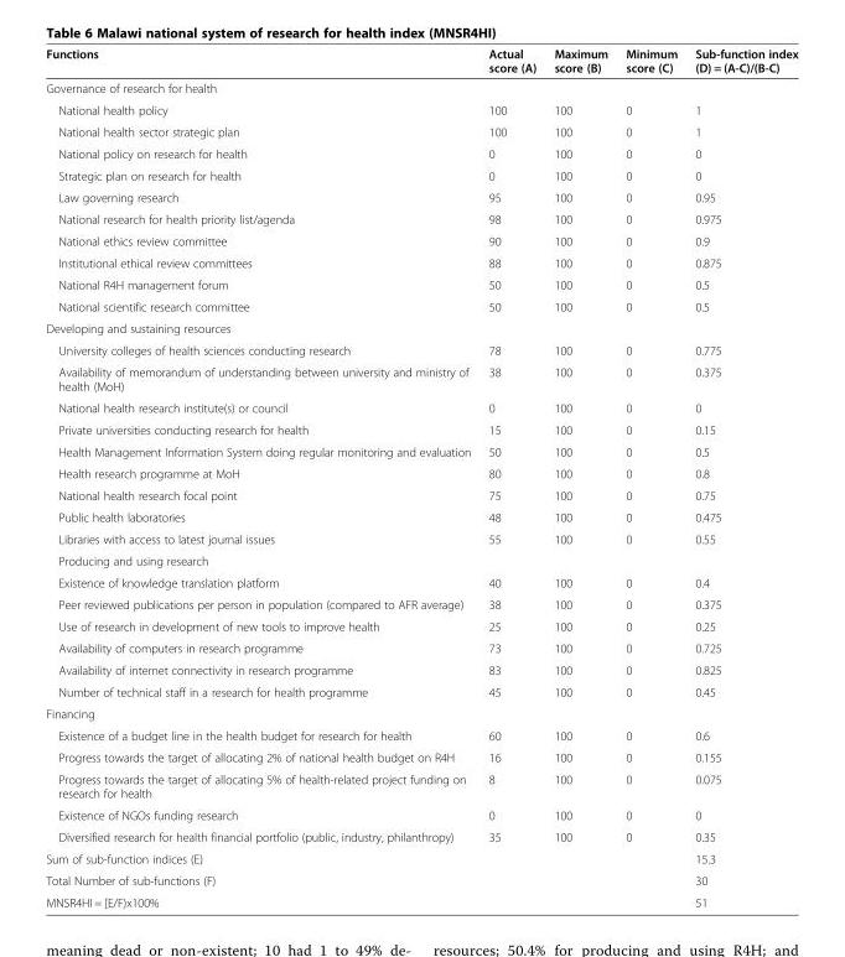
<table><thead><tr><td>Functions</td><td>Actual score (A)</td><td>Maximum score (B)</td><td>Minimum score (C)</td><td>Sub-function index (D) = (A-C)/(B-C)</td></tr></thead><tbody><tr><td colspan="5">Governance of research for health</td></tr><tr><td>National health policy</td><td>100</td><td>100</td><td>0</td><td>1</td></tr><tr><td>National health sector strategic plan</td><td>100</td><td>100</td><td>0</td><td>1</td></tr><tr><td>National policy on research for health</td><td>0</td><td>100</td><td>0</td><td>0</td></tr><tr><td>Strategic plan on research for health</td><td>0</td><td>100</td><td>0</td><td>0</td></tr><tr><td>Law governing research</td><td>95</td><td>100</td><td>0</td><td>0.95</td></tr><tr><td>National research for health priority list/agenda</td><td>98</td><td>100</td><td>0</td><td>0.975</td></tr><tr><td>National ethics review committee</td><td>90</td><td>100</td><td>0</td><td>0.9</td></tr><tr><td>Institutional ethical review committees</td><td>88</td><td>100</td><td>0</td><td>0.875</td></tr><tr><td>National R4H management forum</td><td>50</td><td>100</td><td>0</td><td>0.5</td></tr><tr><td>National scientific research committee</td><td>50</td><td>100</td><td>0</td><td>0.5</td></tr><tr><td colspan="5">Developing and sustaining resources</td></tr><tr><td>University colleges of health sciences conducting research</td><td>78</td><td>100</td><td>0</td><td>0.775</td></tr><tr><td>Availability of memorandum of understanding between university and ministry of health (MoH)</td><td>38</td><td>100</td><td>0</td><td>0.375</td></tr><tr><td>National health research institute(s) or council</td><td>0</td><td>100</td><td>0</td><td>0</td></tr><tr><td>Private universities conducting research for health</td><td>15</td><td>100</td><td>0</td><td>0.15</td></tr><tr><td>Health Management Information System doing regular monitoring and evaluation</td><td>50</td><td>100</td><td>0</td><td>0.5</td></tr><tr><td>Health research programme at MoH</td><td>80</td><td>100</td><td>0</td><td>0.8</td></tr><tr><td>National health research focal point</td><td>75</td><td>100</td><td>0</td><td>0.75</td></tr><tr><td>Public health laboratories</td><td>48</td><td>100</td><td>0</td><td>0.475</td></tr><tr><td>Libraries with access to latest journal issues</td><td>55</td><td>100</td><td>0</td><td>0.55</td></tr><tr><td colspan="5">Producing and using research</td></tr><tr><td>Existence of knowledge translation platform</td><td>40</td><td>100</td><td>0</td><td>0.4</td></tr><tr><td>Peer reviewed publications per person in population (compared to AFR average)</td><td>38</td><td>100</td><td>0</td><td>0.375</td></tr><tr><td>Use of research in development of new tools to improve health</td><td>25</td><td>100</td><td>0</td><td>0.25</td></tr><tr><td>Availability of computers in research programme</td><td>73</td><td>100</td><td>0</td><td>0.725</td></tr><tr><td>Availability of internet connectivity in research programme</td><td>83</td><td>100</td><td>0</td><td>0.825</td></tr><tr><td>Number of technical staff in a research for health programme</td><td>45</td><td>100</td><td>0</td><td>0.45</td></tr><tr><td colspan="5">Financing</td></tr><tr><td>Existence of a budget line in the health budget for research for health</td><td>60</td><td>100</td><td>0</td><td>0.6</td></tr><tr><td>Progress towards the target of allocating 2% of national health budget on R4H</td><td>16</td><td>100</td><td>0</td><td>0.155</td></tr><tr><td>Progress towards the target of allocating 5% of health-related project funding on research for health</td><td>8</td><td>100</td><td>0</td><td>0.075</td></tr><tr><td>Existence of NGOs funding research</td><td>0</td><td>100</td><td>0</td><td>0</td></tr><tr><td>Diversified research for health financial portfolio (public, industry, philanthropy)</td><td>35</td><td>100</td><td>0</td><td>0.35</td></tr><tr><td>Sum of sub-function indices (E)</td><td></td><td></td><td></td><td>15.3</td></tr><tr><td>Total Number of sub-functions (F)</td><td></td><td></td><td></td><td>30</td></tr><tr><td>MNSR4HI = [E/F)x100%</td><td></td><td></td><td></td><td>51</td></tr></tbody></table>